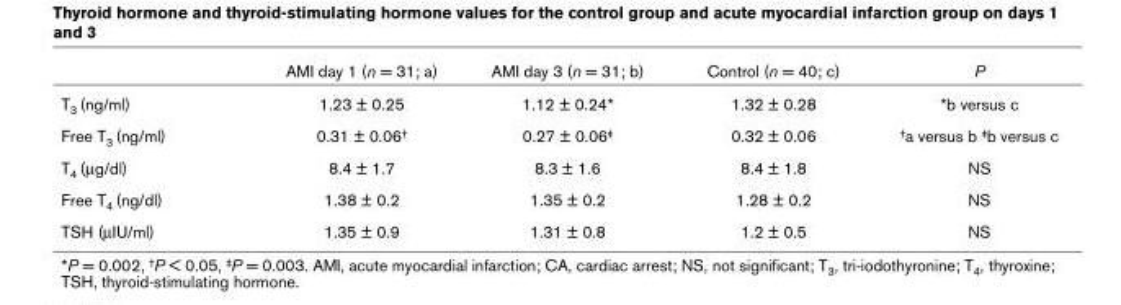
<table><thead><tr><td></td><td>AMI day 1 (n = 31; a)</td><td>AMI day 3 (n = 31; b)</td><td>Control (n = 40; c)</td><td>P</td></tr></thead><tbody><tr><td>T3 (ng/ml)</td><td>1.23 ± 0.25</td><td>1.12 ± 0.24*</td><td>1.32 ± 0.28</td><td>*b versus c</td></tr><tr><td>Free T3 (ng/ml)</td><td>0.31 ± 0.06†</td><td>0.27 ± 0.06‡</td><td>0.32 ± 0.06</td><td>†a versus b ‡b versus c</td></tr><tr><td>T4 (µg/dl)</td><td>8.4 ± 1.7</td><td>8.3 ± 1.6</td><td>8.4 ± 1.8</td><td>NS</td></tr><tr><td>Free T4 (ng/dl)</td><td>1.38 ± 0.2</td><td>1.35 ± 0.2</td><td>1.28 ± 0.2</td><td>NS</td></tr><tr><td>TSH (µIU/ml)</td><td>1.35 ± 0.9</td><td>1.31 ± 0.8</td><td>1.2 ± 0.5</td><td>NS</td></tr></tbody></table>